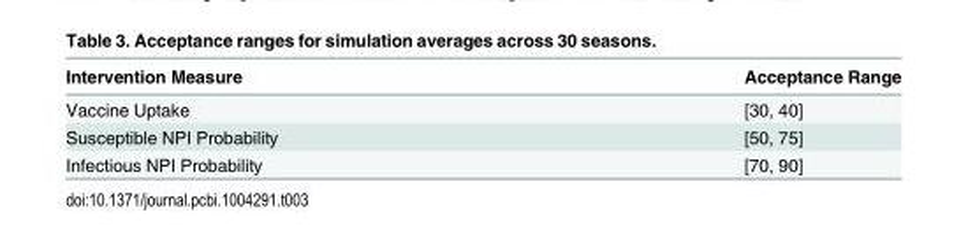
<table><thead><tr><td>Intervention Measure</td><td>Acceptance Range</td></tr></thead><tbody><tr><td>Vaccine Uptake</td><td>[30, 40]</td></tr><tr><td>Susceptible NPI Probability</td><td>[50, 75]</td></tr><tr><td>Infectious NPI Probability</td><td>[70, 90]</td></tr></tbody></table>